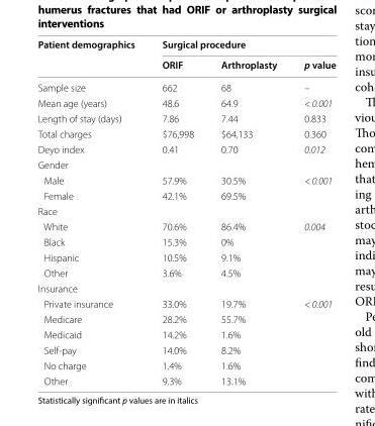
<table><thead><tr><td rowspan="2">Patient demographics</td><td colspan="3">Surgical procedure</td></tr><tr><td>ORIF</td><td>Arthroplasty</td><td>p value</td></tr></thead><tbody><tr><td>Sample size</td><td>662</td><td>68</td><td>–</td></tr><tr><td>Mean age (years)</td><td>48.6</td><td>64.9</td><td>&lt; 0.001</td></tr><tr><td>Length of stay (days)</td><td>7.86</td><td>7.44</td><td>0.833</td></tr><tr><td>Total charges</td><td>$76,998</td><td>$64,133</td><td>0.360</td></tr><tr><td>Deyo index</td><td>0.41</td><td>0.70</td><td>0.012</td></tr><tr><td colspan="4">Gender</td></tr><tr><td>Male</td><td>57.9%</td><td>30.5%</td><td rowspan="2">&lt; 0.001</td></tr><tr><td>Female</td><td>42.1%</td><td>69.5%</td></tr><tr><td colspan="4">Race</td></tr><tr><td>White</td><td>70.6%</td><td>86.4%</td><td rowspan="4">0.004</td></tr><tr><td>Black</td><td>15.3%</td><td>0%</td></tr><tr><td>Hispanic</td><td>10.5%</td><td>9.1%</td></tr><tr><td>Other</td><td>3.6%</td><td>4.5%</td></tr><tr><td colspan="4">Insurance</td></tr><tr><td>Private insurance</td><td>33.0%</td><td>19.7%</td><td rowspan="6">&lt; 0.001</td></tr><tr><td>Medicare</td><td>28.2%</td><td>55.7%</td></tr><tr><td>Medicaid</td><td>14.2%</td><td>1.6%</td></tr><tr><td>Self-pay</td><td>14.0%</td><td>8.2%</td></tr><tr><td>No charge</td><td>1.4%</td><td>1.6%</td></tr><tr><td>Other</td><td>9.3%</td><td>13.1%</td></tr></tbody></table>